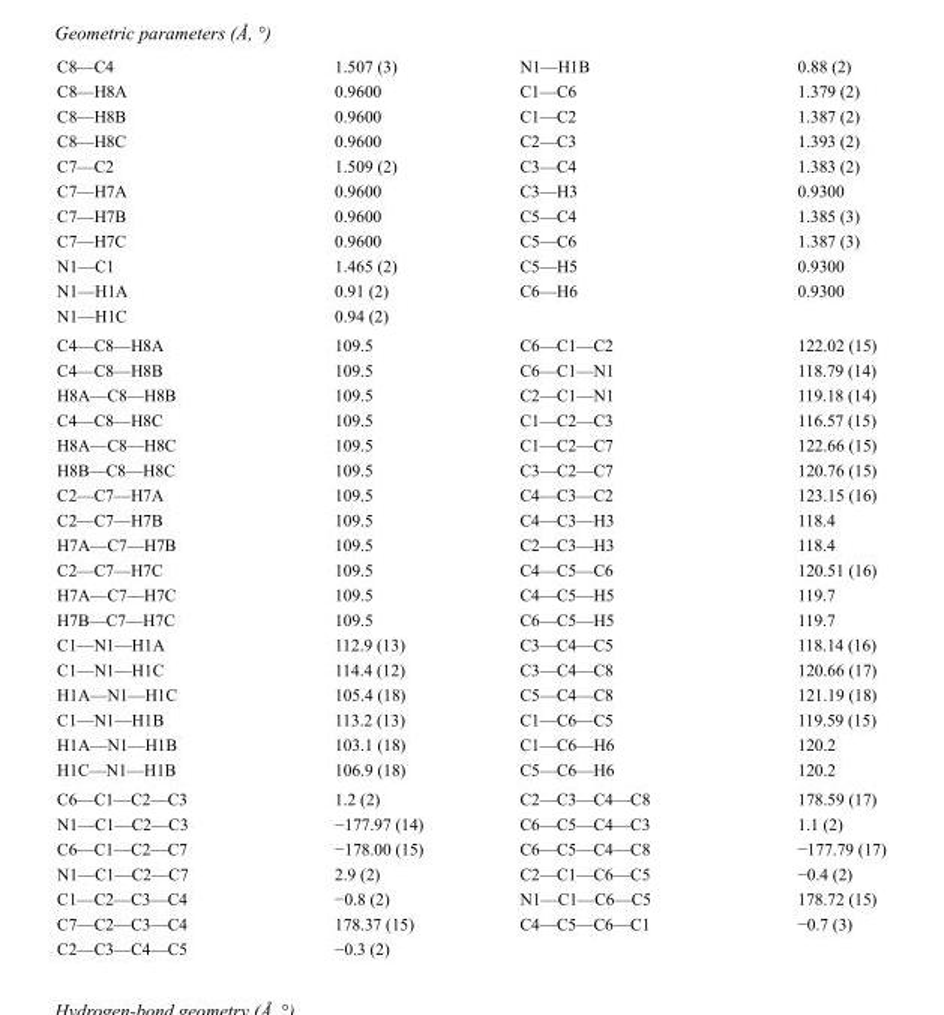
<table><tbody><tr><td>C8—C4</td><td>1.507 (3)</td><td>N1—H1B</td><td>0.88 (2)</td></tr><tr><td>C8—H8A</td><td>0.9600</td><td>C1—C6</td><td>1.379 (2)</td></tr><tr><td>C8—H8B</td><td>0.9600</td><td>C1—C2</td><td>1.387 (2)</td></tr><tr><td>C8—H8C</td><td>0.9600</td><td>C2—C3</td><td>1.393 (2)</td></tr><tr><td>C7—C2</td><td>1.509 (2)</td><td>C3—C4</td><td>1.383 (2)</td></tr><tr><td>C7—H7A</td><td>0.9600</td><td>C3—H3</td><td>0.9300</td></tr><tr><td>C7—H7B</td><td>0.9600</td><td>C5—C4</td><td>1.385 (3)</td></tr><tr><td>C7—H7C</td><td>0.9600</td><td>C5—C6</td><td>1.387 (3)</td></tr><tr><td>N1—C1</td><td>1.465 (2)</td><td>C5—H5</td><td>0.9300</td></tr><tr><td>N1—H1A</td><td>0.91 (2)</td><td>C6—H6</td><td>0.9300</td></tr><tr><td>N1—H1C</td><td>0.94 (2)</td><td></td><td></td></tr><tr><td>C4—C8—H8A</td><td>109.5</td><td>C6—C1—C2</td><td>122.02 (15)</td></tr><tr><td>C4—C8—H8B</td><td>109.5</td><td>C6—C1—N1</td><td>118.79 (14)</td></tr><tr><td>H8A—C8—H8B</td><td>109.5</td><td>C2—C1—N1</td><td>119.18 (14)</td></tr><tr><td>C4—C8—H8C</td><td>109.5</td><td>C1—C2—C3</td><td>116.57 (15)</td></tr><tr><td>H8A—C8—H8C</td><td>109.5</td><td>C1—C2—C7</td><td>122.66 (15)</td></tr><tr><td>H8B—C8—H8C</td><td>109.5</td><td>C3—C2—C7</td><td>120.76 (15)</td></tr><tr><td>C2—C7—H7A</td><td>109.5</td><td>C4—C3—C2</td><td>123.15 (16)</td></tr><tr><td>C2—C7—H7B</td><td>109.5</td><td>C4—C3—H3</td><td>118.4</td></tr><tr><td>H7A—C7—H7B</td><td>109.5</td><td>C2—C3—H3</td><td>118.4</td></tr><tr><td>C2—C7—H7C</td><td>109.5</td><td>C4—C5—C6</td><td>120.51 (16)</td></tr><tr><td>H7A—C7—H7C</td><td>109.5</td><td>C4—C5—H5</td><td>119.7</td></tr><tr><td>H7B—C7—H7C</td><td>109.5</td><td>C6—C5—H5</td><td>119.7</td></tr><tr><td>C1—N1—H1A</td><td>112.9 (13)</td><td>C3—C4—C5</td><td>118.14 (16)</td></tr><tr><td>C1—N1—H1C</td><td>114.4 (12)</td><td>C3—C4—C8</td><td>120.66 (17)</td></tr><tr><td>H1A—N1—H1C</td><td>105.4 (18)</td><td>C5—C4—C8</td><td>121.19 (18)</td></tr><tr><td>C1—N1—H1B</td><td>113.2 (13)</td><td>C1—C6—C5</td><td>119.59 (15)</td></tr><tr><td>H1A—N1—H1B</td><td>103.1 (18)</td><td>C1—C6—H6</td><td>120.2</td></tr><tr><td>H1C—N1—H1B</td><td>106.9 (18)</td><td>C5—C6—H6</td><td>120.2</td></tr><tr><td>C6—C1—C2—C3</td><td>1.2 (2)</td><td>C2—C3—C4—C8</td><td>178.59 (17)</td></tr><tr><td>N1—C1—C2—C3</td><td>−177.97 (14)</td><td>C6—C5—C4—C3</td><td>1.1 (2)</td></tr><tr><td>C6—C1—C2—C7</td><td>−178.00 (15)</td><td>C6—C5—C4—C8</td><td>−177.79 (17)</td></tr><tr><td>N1—C1—C2—C7</td><td>2.9 (2)</td><td>C2—C1—C6—C5</td><td>−0.4 (2)</td></tr><tr><td>C1—C2—C3—C4</td><td>−0.8 (2)</td><td>N1—C1—C6—C5</td><td>178.72 (15)</td></tr><tr><td>C7—C2—C3—C4</td><td>178.37 (15)</td><td>C4—C5—C6—C1</td><td>−0.7 (3)</td></tr><tr><td>C2—C3—C4—C5</td><td>−0.3 (2)</td><td></td><td></td></tr></tbody></table>